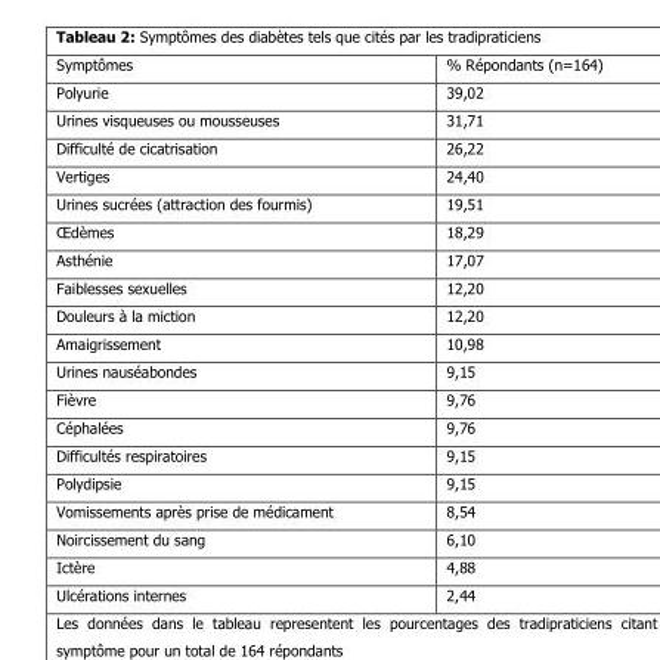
<table><thead><tr><td>Symptômes</td><td>% Répondants (n=164)</td></tr></thead><tbody><tr><td>Polyurie</td><td>39,02</td></tr><tr><td>Urines visqueuses ou mousseuses</td><td>31,71</td></tr><tr><td>Difficulté de cicatrisation</td><td>26,22</td></tr><tr><td>Vertiges</td><td>24,40</td></tr><tr><td>Urines sucrées (attraction des fourmis)</td><td>19,51</td></tr><tr><td>Œdèmes</td><td>18,29</td></tr><tr><td>Asthénie</td><td>17,07</td></tr><tr><td>Faiblesses sexuelles</td><td>12,20</td></tr><tr><td>Douleurs à la miction</td><td>12,20</td></tr><tr><td>Amaigrissement</td><td>10,98</td></tr><tr><td>Urines nauséabondes</td><td>9,15</td></tr><tr><td>Fièvre</td><td>9,76</td></tr><tr><td>Céphalées</td><td>9,76</td></tr><tr><td>Difficultés respiratoires</td><td>9,15</td></tr><tr><td>Polydipsie</td><td>9,15</td></tr><tr><td>Vomissements après prise de médicament</td><td>8,54</td></tr><tr><td>Noircissement du sang</td><td>6,10</td></tr><tr><td>Ictère</td><td>4,88</td></tr><tr><td>Ulcérations internes</td><td>2,44</td></tr></tbody></table>